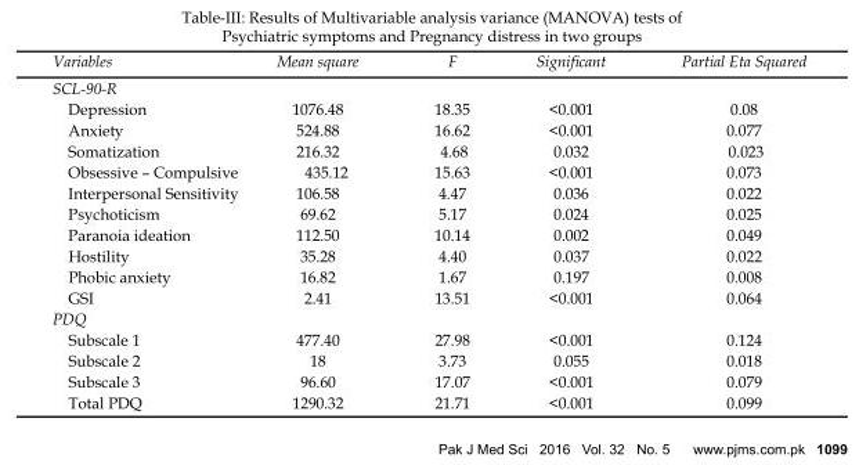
<table><thead><tr><td>Variables</td><td>Mean square</td><td>F</td><td>Significant</td><td>Partial Eta Squared</td></tr></thead><tbody><tr><td colspan="5">SCL-90-R</td></tr><tr><td>Depression</td><td>1076.48</td><td>18.35</td><td>&lt;0.001</td><td>0.08</td></tr><tr><td>Anxiety</td><td>524.88</td><td>16.62</td><td>&lt;0.001</td><td>0.077</td></tr><tr><td>Somatization</td><td>216.32</td><td>4.68</td><td>0.032</td><td>0.023</td></tr><tr><td>Obsessive – Compulsive</td><td>435.12</td><td>15.63</td><td>&lt;0.001</td><td>0.073</td></tr><tr><td>Interpersonal Sensitivity</td><td>106.58</td><td>4.47</td><td>0.036</td><td>0.022</td></tr><tr><td>Psychoticism</td><td>69.62</td><td>5.17</td><td>0.024</td><td>0.025</td></tr><tr><td>Paranoia ideation</td><td>112.50</td><td>10.14</td><td>0.002</td><td>0.049</td></tr><tr><td>Hostility</td><td>35.28</td><td>4.40</td><td>0.037</td><td>0.022</td></tr><tr><td>Phobic anxiety</td><td>16.82</td><td>1.67</td><td>0.197</td><td>0.008</td></tr><tr><td>GSI</td><td>2.41</td><td>13.51</td><td>&lt;0.001</td><td>0.064</td></tr><tr><td colspan="5">PDQ</td></tr><tr><td>Subscale 1</td><td>477.40</td><td>27.98</td><td>&lt;0.001</td><td>0.124</td></tr><tr><td>Subscale 2</td><td>18</td><td>3.73</td><td>0.055</td><td>0.018</td></tr><tr><td>Subscale 3</td><td>96.60</td><td>17.07</td><td>&lt;0.001</td><td>0.079</td></tr><tr><td>Total PDQ</td><td>1290.32</td><td>21.71</td><td>&lt;0.001</td><td>0.099</td></tr></tbody></table>